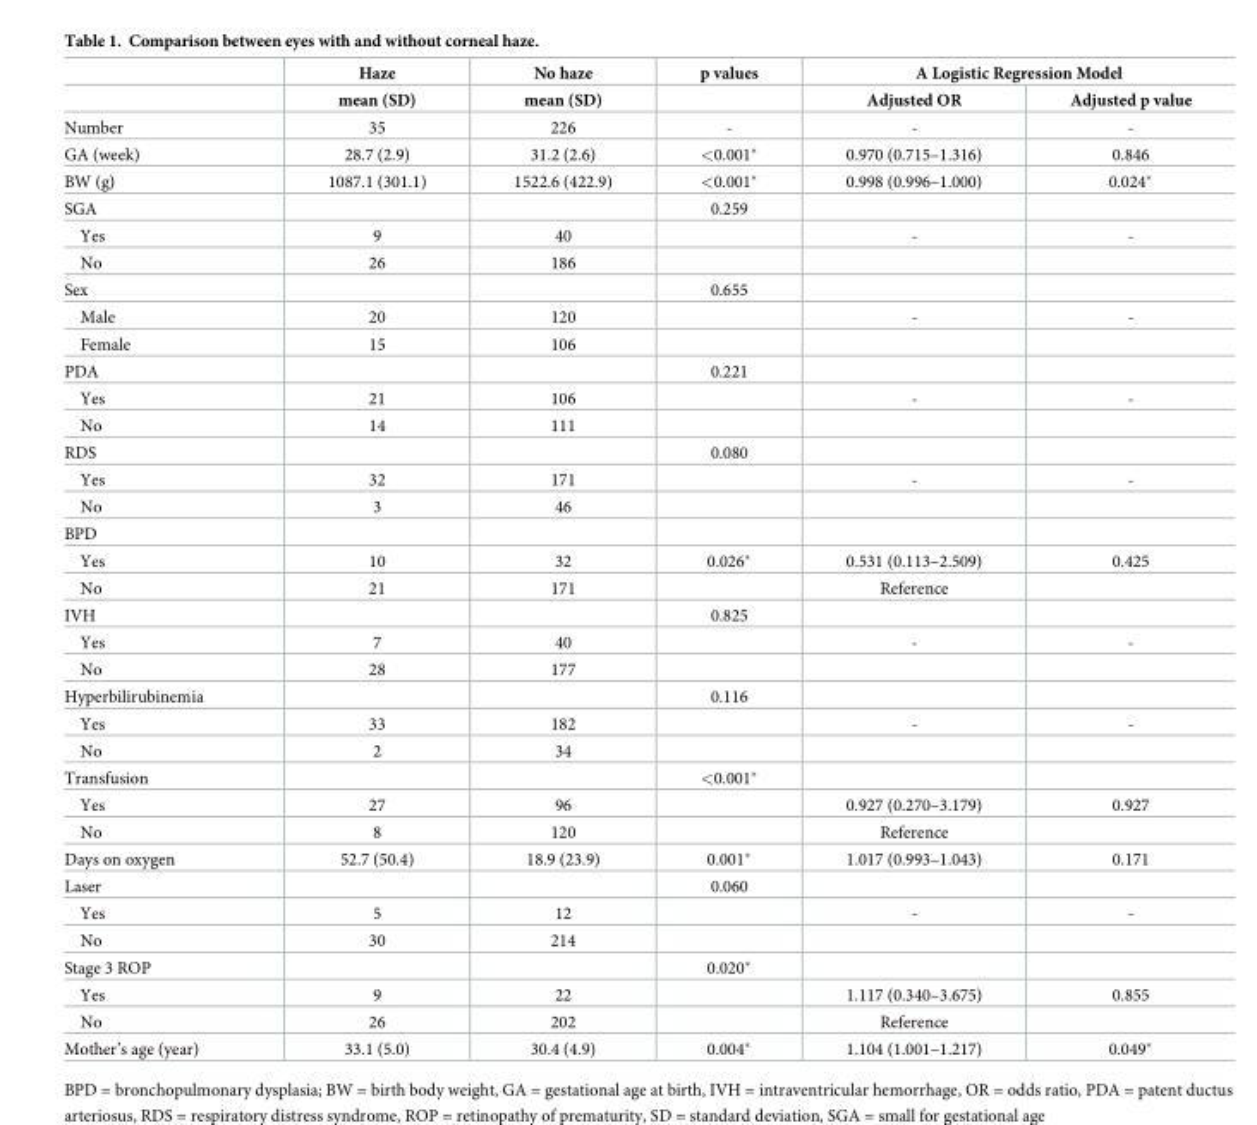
<table><thead><tr><td rowspan="2"></td><td rowspan="2">Haze mean (SD)</td><td rowspan="2">No haze mean (SD)</td><td rowspan="2">p values</td><td colspan="2">A Logistic Regression Model</td></tr><tr><td>Adjusted OR</td><td>Adjusted p value</td></tr></thead><tbody><tr><td>Number</td><td>35</td><td>226</td><td>-</td><td>-</td><td>-</td></tr><tr><td>GA (week)</td><td>28.7 (2.9)</td><td>31.2 (2.6)</td><td>&lt;0.001*</td><td>0.970 (0.715–1.316)</td><td>0.846</td></tr><tr><td>BW (g)</td><td>1087.1 (301.1)</td><td>1522.6 (422.9)</td><td>&lt;0.001*</td><td>0.998 (0.996–1.000)</td><td>0.024*</td></tr><tr><td>SGA</td><td></td><td></td><td>0.259</td><td></td><td></td></tr><tr><td>Yes</td><td>9</td><td>40</td><td></td><td>-</td><td>-</td></tr><tr><td>No</td><td>26</td><td>186</td><td></td><td></td><td></td></tr><tr><td>Sex</td><td></td><td></td><td>0.655</td><td></td><td></td></tr><tr><td>Male</td><td>20</td><td>120</td><td></td><td>-</td><td>-</td></tr><tr><td>Female</td><td>15</td><td>106</td><td></td><td></td><td></td></tr><tr><td>PDA</td><td></td><td></td><td>0.221</td><td></td><td></td></tr><tr><td>Yes</td><td>21</td><td>106</td><td></td><td>-</td><td>-</td></tr><tr><td>No</td><td>14</td><td>111</td><td></td><td></td><td></td></tr><tr><td>RDS</td><td></td><td></td><td>0.080</td><td></td><td></td></tr><tr><td>Yes</td><td>32</td><td>171</td><td></td><td>-</td><td>-</td></tr><tr><td>No</td><td>3</td><td>46</td><td></td><td></td><td></td></tr><tr><td colspan="6">BPD</td></tr><tr><td>Yes</td><td>10</td><td>32</td><td>0.026*</td><td>0.531 (0.113–2.509)</td><td>0.425</td></tr><tr><td>No</td><td>21</td><td>171</td><td></td><td>Reference</td><td></td></tr><tr><td>IVH</td><td></td><td></td><td>0.825</td><td></td><td></td></tr><tr><td>Yes</td><td>7</td><td>40</td><td></td><td>-</td><td>-</td></tr><tr><td>No</td><td>28</td><td>177</td><td></td><td></td><td></td></tr><tr><td>Hyperbilirubinemia</td><td></td><td></td><td>0.116</td><td></td><td></td></tr><tr><td>Yes</td><td>33</td><td>182</td><td></td><td>-</td><td>-</td></tr><tr><td>No</td><td>2</td><td>34</td><td></td><td></td><td></td></tr><tr><td>Transfusion</td><td></td><td></td><td>&lt;0.001*</td><td></td><td></td></tr><tr><td>Yes</td><td>27</td><td>96</td><td></td><td>0.927 (0.270–3.179)</td><td>0.927</td></tr><tr><td>No</td><td>8</td><td>120</td><td></td><td>Reference</td><td></td></tr><tr><td>Days on oxygen</td><td>52.7 (50.4)</td><td>18.9 (23.9)</td><td>0.001*</td><td>1.017 (0.993–1.043)</td><td>0.171</td></tr><tr><td>Laser</td><td></td><td></td><td>0.060</td><td></td><td></td></tr><tr><td>Yes</td><td>5</td><td>12</td><td></td><td>-</td><td>-</td></tr><tr><td>No</td><td>30</td><td>214</td><td></td><td></td><td></td></tr><tr><td>Stage 3 ROP</td><td></td><td></td><td>0.020*</td><td></td><td></td></tr><tr><td>Yes</td><td>9</td><td>22</td><td></td><td>1.117 (0.340–3.675)</td><td>0.855</td></tr><tr><td>No</td><td>26</td><td>202</td><td></td><td>Reference</td><td></td></tr><tr><td>Mother’s age (year)</td><td>33.1 (5.0)</td><td>30.4 (4.9)</td><td>0.004*</td><td>1.104 (1.001–1.217)</td><td>0.049*</td></tr></tbody></table>